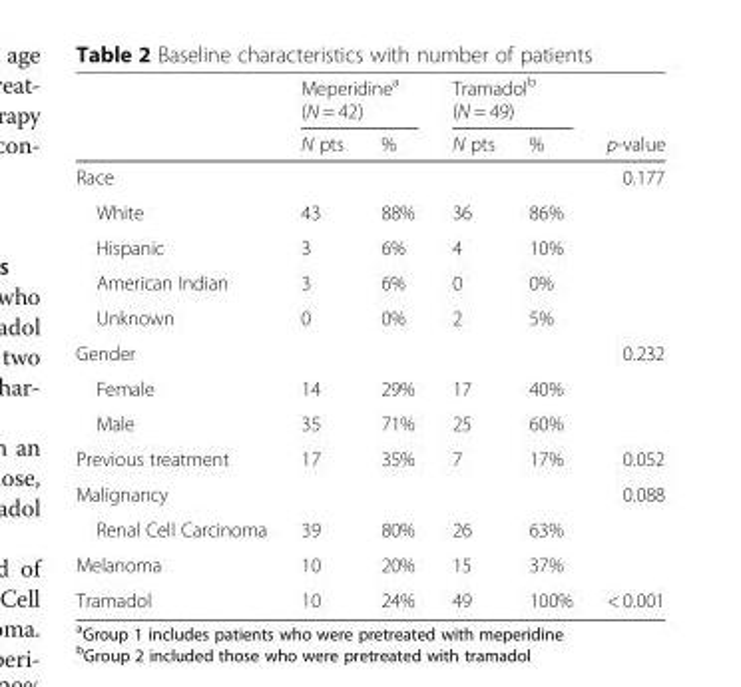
<table><thead><tr><td rowspan="2"></td><td colspan="2">Meperidine<sup>a</sup> (N = 42)</td><td colspan="2">Tramadol<sup>b</sup> (N = 49)</td><td rowspan="2">p-value</td></tr><tr><td>N pts</td><td>%</td><td>N pts</td><td>%</td></tr></thead><tbody><tr><td>Race</td><td></td><td></td><td></td><td></td><td>0.177</td></tr><tr><td>White</td><td>43</td><td>88%</td><td>36</td><td>86%</td><td></td></tr><tr><td>Hispanic</td><td>3</td><td>6%</td><td>4</td><td>10%</td><td></td></tr><tr><td>American Indian</td><td>3</td><td>6%</td><td>0</td><td>0%</td><td></td></tr><tr><td>Unknown</td><td>0</td><td>0%</td><td>2</td><td>5%</td><td></td></tr><tr><td>Gender</td><td></td><td></td><td></td><td></td><td>0.232</td></tr><tr><td>Female</td><td>14</td><td>29%</td><td>17</td><td>40%</td><td></td></tr><tr><td>Male</td><td>35</td><td>71%</td><td>25</td><td>60%</td><td></td></tr><tr><td>Previous treatment</td><td>17</td><td>35%</td><td>7</td><td>17%</td><td>0.052</td></tr><tr><td>Malignancy</td><td></td><td></td><td></td><td></td><td>0.088</td></tr><tr><td>Renal Cell Carcinoma</td><td>39</td><td>80%</td><td>26</td><td>63%</td><td></td></tr><tr><td>Melanoma</td><td>10</td><td>20%</td><td>15</td><td>37%</td><td></td></tr><tr><td>Tramadol</td><td>10</td><td>24%</td><td>49</td><td>100%</td><td>&lt; 0.001</td></tr></tbody></table>